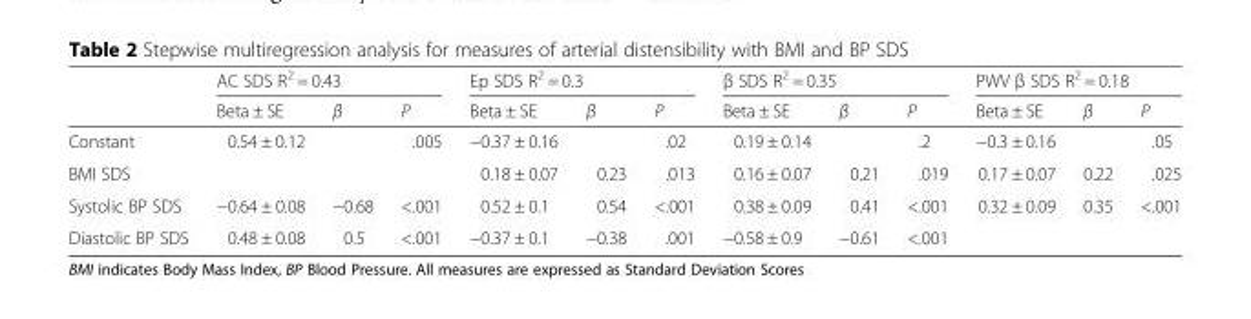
<table><thead><tr><td rowspan="2"></td><td colspan="3">AC SDS R<sup>2</sup> = 0.43</td><td colspan="3">Ep SDS R<sup>2</sup> = 0.3</td><td colspan="3">β SDS R<sup>2</sup> = 0.35</td><td colspan="3">PWV β SDS R<sup>2</sup> = 0.18</td></tr><tr><td>Beta ± SE</td><td>β</td><td>P</td><td>Beta ± SE</td><td>β</td><td>P</td><td>Beta ± SE</td><td>β</td><td>P</td><td>Beta ± SE</td><td>β</td><td>P</td></tr></thead><tbody><tr><td>Constant</td><td>0.54 ± 0.12</td><td></td><td>.005</td><td>−0.37 ± 0.16</td><td></td><td>.02</td><td>0.19 ± 0.14</td><td></td><td>.2</td><td>−0.3 ± 0.16</td><td></td><td>.05</td></tr><tr><td>BMI SDS</td><td></td><td></td><td></td><td>0.18 ± 0.07</td><td>0.23</td><td>.013</td><td>0.16 ± 0.07</td><td>0.21</td><td>.019</td><td>0.17 ± 0.07</td><td>0.22</td><td>.025</td></tr><tr><td>Systolic BP SDS</td><td>−0.64 ± 0.08</td><td>−0.68</td><td>&lt;.001</td><td>0.52 ± 0.1</td><td>0.54</td><td>&lt;.001</td><td>0.38 ± 0.09</td><td>0.41</td><td>&lt;.001</td><td>0.32 ± 0.09</td><td>0.35</td><td>&lt;.001</td></tr><tr><td>Diastolic BP SDS</td><td>0.48 ± 0.08</td><td>0.5</td><td>&lt;.001</td><td>−0.37 ± 0.1</td><td>−0.38</td><td>.001</td><td>−0.58 ± 0.9</td><td>−0.61</td><td>&lt;.001</td><td></td><td></td><td></td></tr></tbody></table>